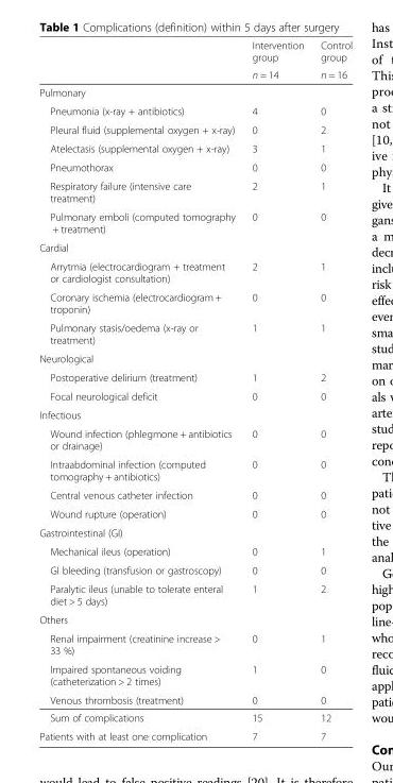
<table><thead><tr><td rowspan="2"></td><td rowspan="2">Intervention group n = 14</td><td rowspan="2">Control group n = 16</td></tr><tr></tr></thead><tbody><tr><td colspan="3">Pulmonary</td></tr><tr><td>Pneumonia (x-ray + antibiotics)</td><td>4</td><td>0</td></tr><tr><td>Pleural fluid (supplemental oxygen + x-ray)</td><td>0</td><td>2</td></tr><tr><td>Atelectasis (supplemental oxygen + x-ray)</td><td>3</td><td>1</td></tr><tr><td>Pneumothorax</td><td>0</td><td>0</td></tr><tr><td>Respiratory failure (intensive care treatment)</td><td>2</td><td>1</td></tr><tr><td>Pulmonary emboli (computed tomography + treatment)</td><td>0</td><td>0</td></tr><tr><td colspan="3">Cardial</td></tr><tr><td>Arrytmia (electrocardiogram + treatment or cardiologist consultation)</td><td>2</td><td>1</td></tr><tr><td>Coronary ischemia (electrocardiogram + troponin)</td><td>0</td><td>0</td></tr><tr><td>Pulmonary stasis/oedema (x-ray or treatment)</td><td>1</td><td>1</td></tr><tr><td colspan="3">Neurological</td></tr><tr><td>Postoperative delirium (treatment)</td><td>1</td><td>2</td></tr><tr><td>Focal neurological deficit</td><td>0</td><td>0</td></tr><tr><td colspan="3">Infectious</td></tr><tr><td>Wound infection (phlegmone + antibiotics or drainage)</td><td>0</td><td>0</td></tr><tr><td>Intraabdominal infection (computed tomography + antibiotics)</td><td>0</td><td>0</td></tr><tr><td>Central venous catheter infection</td><td>0</td><td>0</td></tr><tr><td>Wound rupture (operation)</td><td>0</td><td>0</td></tr><tr><td colspan="3">Gastrointestinal (GI)</td></tr><tr><td>Mechanical ileus (operation)</td><td>0</td><td>1</td></tr><tr><td>GI bleeding (transfusion or gastroscopy)</td><td>0</td><td>0</td></tr><tr><td>Paralytic ileus (unable to tolerate enteral diet &gt; 5 days)</td><td>1</td><td>2</td></tr><tr><td colspan="3">Others</td></tr><tr><td>Renal impairment (creatinine increase &gt; 33 %)</td><td>0</td><td>1</td></tr><tr><td>Impaired spontaneous voiding (catheterization &gt; 2 times)</td><td>1</td><td>0</td></tr><tr><td>Venous thrombosis (treatment)</td><td>0</td><td>0</td></tr><tr><td>Sum of complications</td><td>15</td><td>12</td></tr><tr><td>Patients with at least one complication</td><td>7</td><td>7</td></tr></tbody></table>